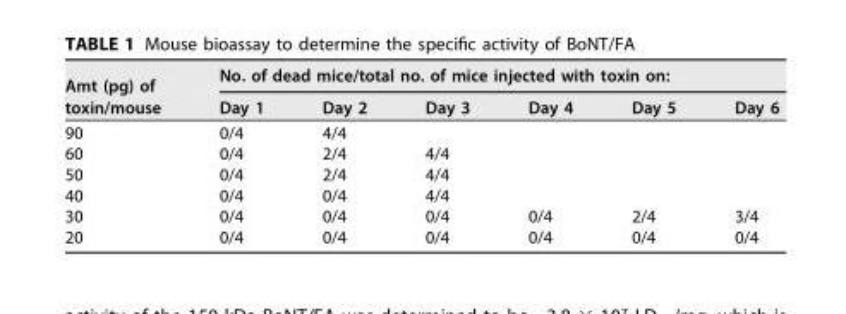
<table><thead><tr><td rowspan="2">Amt (pg) of toxin/mouse</td><td colspan="6">No. of dead mice/total no. of mice injected with toxin on:</td></tr><tr><td>Day 1</td><td>Day 2</td><td>Day 3</td><td>Day 4</td><td>Day 5</td><td>Day 6</td></tr></thead><tbody><tr><td>90</td><td>0/4</td><td>4/4</td><td></td><td></td><td></td><td></td></tr><tr><td>60</td><td>0/4</td><td>2/4</td><td>4/4</td><td></td><td></td><td></td></tr><tr><td>50</td><td>0/4</td><td>2/4</td><td>4/4</td><td></td><td></td><td></td></tr><tr><td>40</td><td>0/4</td><td>0/4</td><td>4/4</td><td></td><td></td><td></td></tr><tr><td>30</td><td>0/4</td><td>0/4</td><td>0/4</td><td>0/4</td><td>2/4</td><td>3/4</td></tr><tr><td>20</td><td>0/4</td><td>0/4</td><td>0/4</td><td>0/4</td><td>0/4</td><td>0/4</td></tr></tbody></table>